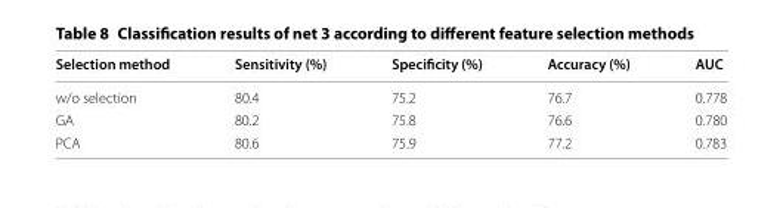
<table><thead><tr><td>Selection method</td><td>Sensitivity (%)</td><td>Specificity (%)</td><td>Accuracy (%)</td><td>AUC</td></tr></thead><tbody><tr><td>w/o selection</td><td>80.4</td><td>75.2</td><td>76.7</td><td>0.778</td></tr><tr><td>GA</td><td>80.2</td><td>75.8</td><td>76.6</td><td>0.780</td></tr><tr><td>PCA</td><td>80.6</td><td>75.9</td><td>77.2</td><td>0.783</td></tr></tbody></table>